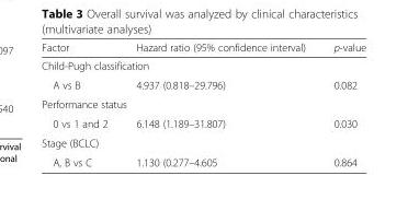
<table><thead><tr><td>Factor</td><td>Hazard ratio (95% confidence interval)</td><td>p-value</td></tr></thead><tbody><tr><td colspan="3">Child-Pugh classification</td></tr><tr><td>A vs B</td><td>4.937 (0.818–29.796)</td><td>0.082</td></tr><tr><td colspan="3">Performance status</td></tr><tr><td>0 vs 1 and 2</td><td>6.148 (1.189–31.807)</td><td>0.030</td></tr><tr><td colspan="3">Stage (BCLC)</td></tr><tr><td>A, B vs C</td><td>1.130 (0.277–4.605</td><td>0.864</td></tr></tbody></table>